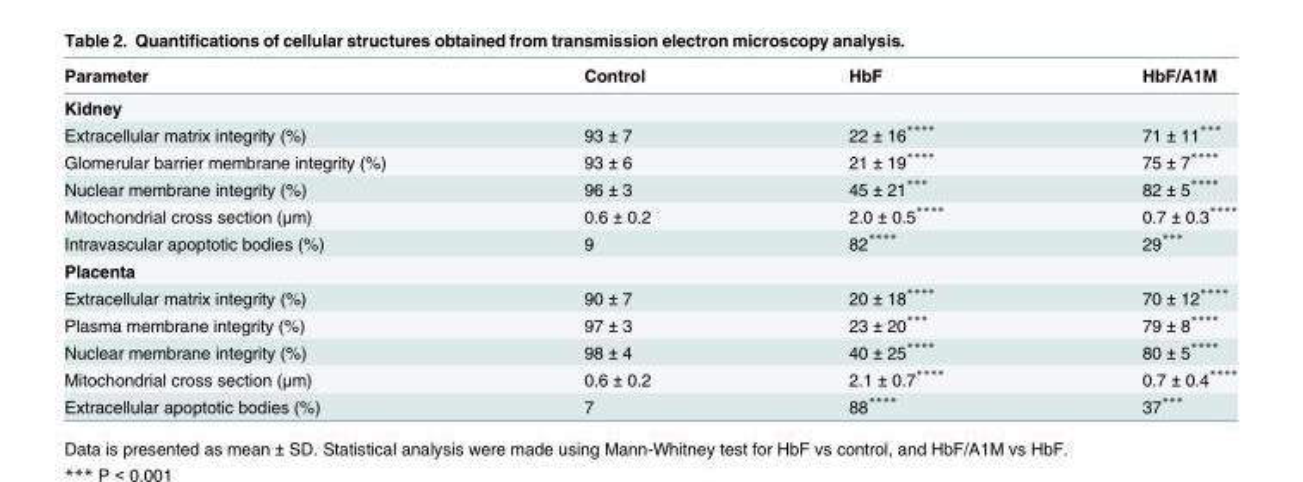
<table><thead><tr><td>Parameter</td><td>Control</td><td>HbF</td><td>HbF/A1M</td></tr></thead><tbody><tr><td colspan="4">Kidney</td></tr><tr><td>Extracellular matrix integrity (%)</td><td>93 ± 7</td><td>22 ± 16****</td><td>71 ± 11***</td></tr><tr><td>Glomerular barrier membrane integrity (%)</td><td>93 ± 6</td><td>21 ± 19****</td><td>75 ± 7****</td></tr><tr><td>Nuclear membrane integrity (%)</td><td>96 ± 3</td><td>45 ± 21***</td><td>82 ± 5****</td></tr><tr><td>Mitochondrial cross section (μm)</td><td>0.6 ± 0.2</td><td>2.0 ± 0.5****</td><td>0.7 ± 0.3****</td></tr><tr><td>Intravascular apoptotic bodies (%)</td><td>9</td><td>82****</td><td>29***</td></tr><tr><td colspan="4">Placenta</td></tr><tr><td>Extracellular matrix integrity (%)</td><td>90 ± 7</td><td>20 ± 18****</td><td>70 ± 12****</td></tr><tr><td>Plasma membrane integrity (%)</td><td>97 ± 3</td><td>23 ± 20***</td><td>79 ± 8****</td></tr><tr><td>Nuclear membrane integrity (%)</td><td>98 ± 4</td><td>40 ± 25****</td><td>80 ± 5****</td></tr><tr><td>Mitochondrial cross section (μm)</td><td>0.6 ± 0.2</td><td>2.1 ± 0.7****</td><td>0.7 ± 0.4****</td></tr><tr><td>Extracellular apoptotic bodies (%)</td><td>7</td><td>88****</td><td>37***</td></tr></tbody></table>